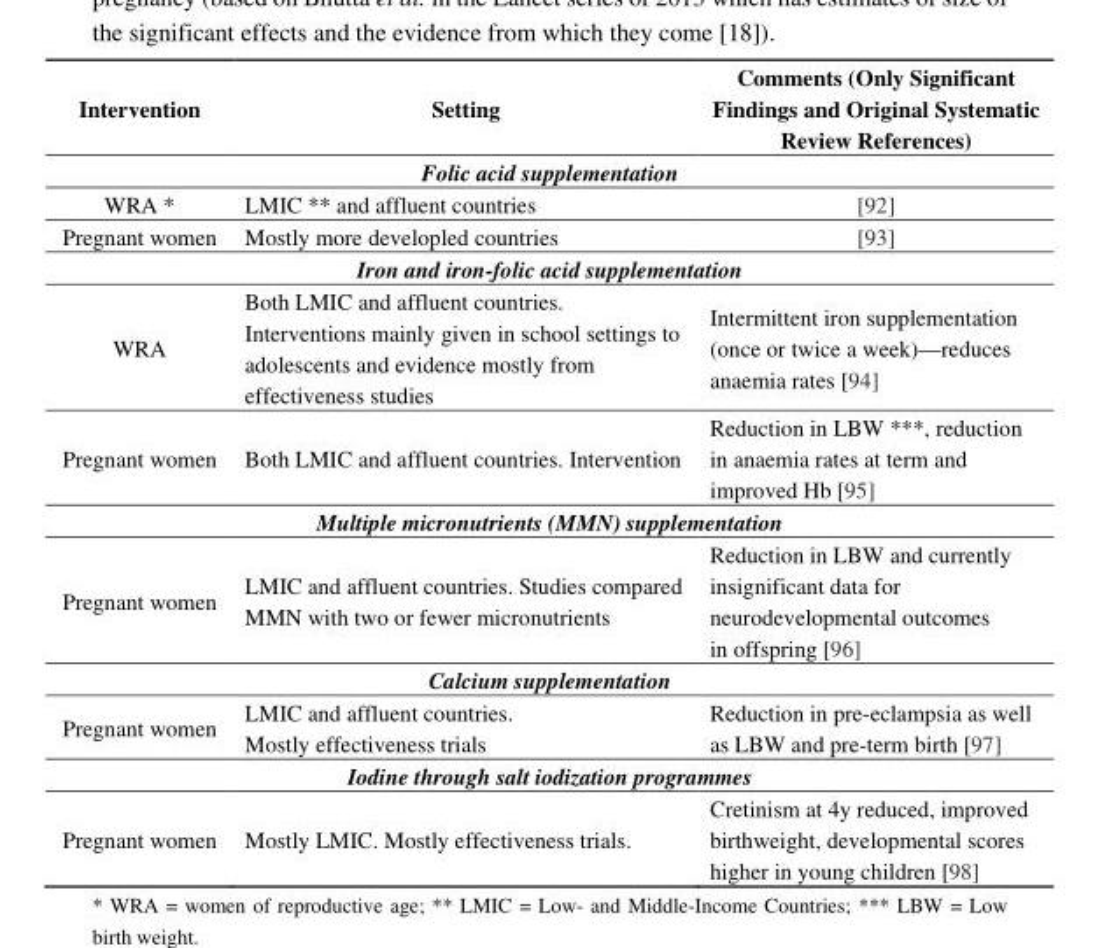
<table><thead><tr><td>Intervention</td><td>Setting</td><td>Comments (Only Significant Findings and Original Systematic Review References)</td></tr></thead><tbody><tr><td colspan="3">Folic acid supplementation</td></tr><tr><td>WRA *</td><td>LMIC ** and affluent countries</td><td>[92]</td></tr><tr><td>Pregnant women</td><td>Mostly more developled countries</td><td>[93]</td></tr><tr><td colspan="3">Iron and iron-folic acid supplementation</td></tr><tr><td>WRA</td><td>Both LMIC and affluent countries. Interventions mainly given in school settings to adolescents and evidence mostly from effectiveness studies</td><td>Intermittent iron supplementation (once or twice a week)—reduces anaemia rates [94]</td></tr><tr><td>Pregnant women</td><td>Both LMIC and affluent countries. Intervention</td><td>Reduction in LBW ***, reduction in anaemia rates at term and improved Hb [95]</td></tr><tr><td colspan="3">Multiple micronutrients (MMN) supplementation</td></tr><tr><td>Pregnant women</td><td>LMIC and affluent countries. Studies compared MMN with two or fewer micronutrients</td><td>Reduction in LBW and currently insignificant data for neurodevelopmental outcomes in offspring [96]</td></tr><tr><td colspan="3">Calcium supplementation</td></tr><tr><td>Pregnant women</td><td>LMIC and affluent countries. Mostly effectiveness trials</td><td>Reduction in pre-eclampsia as well as LBW and pre-term birth [97]</td></tr><tr><td colspan="3">Iodine through salt iodization programmes</td></tr><tr><td>Pregnant women</td><td>Mostly LMIC. Mostly effectiveness trials.</td><td>Cretinism at 4y reduced, improved birthweight, developmental scores higher in young children [98]</td></tr></tbody></table>